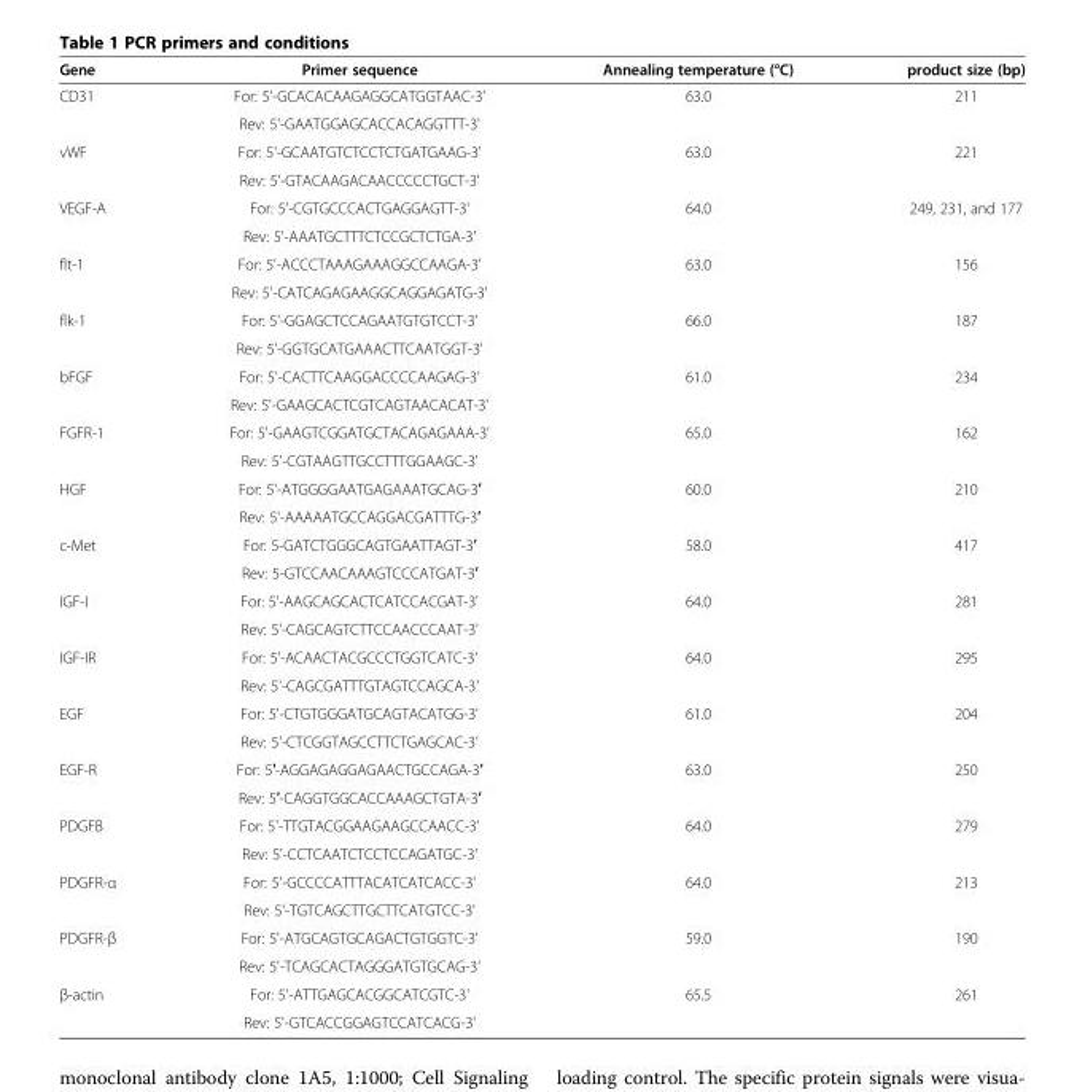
<table><thead><tr><td>Gene</td><td>Primer sequence</td><td>Annealing temperature (°C)</td><td>product size (bp)</td></tr></thead><tbody><tr><td rowspan="2">CD31</td><td>For: 5&#x27;-GCACACAAGAGGCATGGTAAC-3&#x27;</td><td>63.0</td><td>211</td></tr><tr><td>Rev: 5&#x27;-GAATGGAGCACCACAGGTTT-3&#x27;</td><td></td><td></td></tr><tr><td rowspan="2">vWF</td><td>For: 5&#x27;-GCAATGTCTCCTCTGATGAAG-3&#x27;</td><td>63.0</td><td>221</td></tr><tr><td>Rev: 5&#x27;-GTACAAGACAACCCCCTGCT-3&#x27;</td><td></td><td></td></tr><tr><td rowspan="2">VEGF-A</td><td>For: 5&#x27;-CGTGCCCACTGAGGAGTT-3&#x27;</td><td>64.0</td><td>249, 231, and 177</td></tr><tr><td>Rev: 5&#x27;-AAATGCTTTCTCCGCTCTGA-3&#x27;</td><td></td><td></td></tr><tr><td rowspan="2">flt-1</td><td>For: 5&#x27;-ACCCTAAAGAAAGGCCAAGA-3&#x27;</td><td>63.0</td><td>156</td></tr><tr><td>Rev: 5&#x27;-CATCAGAGAAGGCAGGAGATG-3&#x27;</td><td></td><td></td></tr><tr><td rowspan="2">flk-1</td><td>For: 5&#x27;-GGAGCTCCAGAATGTGTCCT-3&#x27;</td><td>66.0</td><td>187</td></tr><tr><td>Rev: 5&#x27;-GGTGCATGAAACTTCAATGGT-3&#x27;</td><td></td><td></td></tr><tr><td rowspan="2">bFGF</td><td>For: 5&#x27;-CACTTCAAGGACCCCAAGAG-3&#x27;</td><td>61.0</td><td>234</td></tr><tr><td>Rev: 5&#x27;-GAAGCACTCGTCAGTAACACAT-3&#x27;</td><td></td><td></td></tr><tr><td rowspan="2">FGFR-1</td><td>For: 5&#x27;-GAAGTCGGATGCTACAGAGAAA-3&#x27;</td><td>65.0</td><td>162</td></tr><tr><td>Rev: 5&#x27;-CGTAAGTTGCCTTTGGAAGC-3&#x27;</td><td></td><td></td></tr><tr><td rowspan="2">HGF</td><td>For: 5&#x27;-ATGGGGAATGAGAAATGCAG-3′</td><td>60.0</td><td>210</td></tr><tr><td>Rev: 5&#x27;-AAAAATGCCAGGACGATTTG-3′</td><td></td><td></td></tr><tr><td rowspan="2">c-Met</td><td>For: 5-GATCTGGGCAGTGAATTAGT-3′</td><td>58.0</td><td>417</td></tr><tr><td>Rev: 5-GTCCAACAAAGTCCCATGAT-3′</td><td></td><td></td></tr><tr><td rowspan="2">IGF-I</td><td>For: 5&#x27;-AAGCAGCACTCATCCACGAT-3&#x27;</td><td>64.0</td><td>281</td></tr><tr><td>Rev: 5&#x27;-CAGCAGTCTTCCAACCCAAT-3&#x27;</td><td></td><td></td></tr><tr><td rowspan="2">IGF-IR</td><td>For: 5&#x27;-ACAACTACGCCCTGGTCATC-3&#x27;</td><td>64.0</td><td>295</td></tr><tr><td>Rev: 5&#x27;-CAGCGATTTGTAGTCCAGCA-3&#x27;</td><td></td><td></td></tr><tr><td rowspan="2">EGF</td><td>For: 5&#x27;-CTGTGGGATGCAGTACATGG-3&#x27;</td><td>61.0</td><td>204</td></tr><tr><td>Rev: 5&#x27;-CTCGGTAGCCTTCTGAGCAC-3&#x27;</td><td></td><td></td></tr><tr><td rowspan="2">EGF-R</td><td>For: 5′-AGGAGAGGAGAACTGCCAGA-3′</td><td>63.0</td><td>250</td></tr><tr><td>Rev: 5′-CAGGTGGCACCAAAGCTGTA-3′</td><td></td><td></td></tr><tr><td rowspan="2">PDGFB</td><td>For: 5&#x27;-TTGTACGGAAGAAGCCAACC-3&#x27;</td><td>64.0</td><td>279</td></tr><tr><td>Rev: 5&#x27;-CCTCAATCTCCTCCAGATGC-3&#x27;</td><td></td><td></td></tr><tr><td rowspan="2">PDGFR-α</td><td>For: 5&#x27;-GCCCCATTTACATCATCACC-3&#x27;</td><td>64.0</td><td>213</td></tr><tr><td>Rev: 5&#x27;-TGTCAGCTTGCTTCATGTCC-3&#x27;</td><td></td><td></td></tr><tr><td rowspan="2">PDGFR-β</td><td>For: 5&#x27;-ATGCAGTGCAGACTGTGGTC-3&#x27;</td><td>59.0</td><td>190</td></tr><tr><td>Rev: 5&#x27;-TCAGCACTAGGGATGTGCAG-3&#x27;</td><td></td><td></td></tr><tr><td rowspan="2">β-actin</td><td>For: 5&#x27;-ATTGAGCACGGCATCGTC-3&#x27;</td><td>65.5</td><td>261</td></tr><tr><td>Rev: 5&#x27;-GTCACCGGAGTCCATCACG-3&#x27;</td><td></td><td></td></tr></tbody></table>